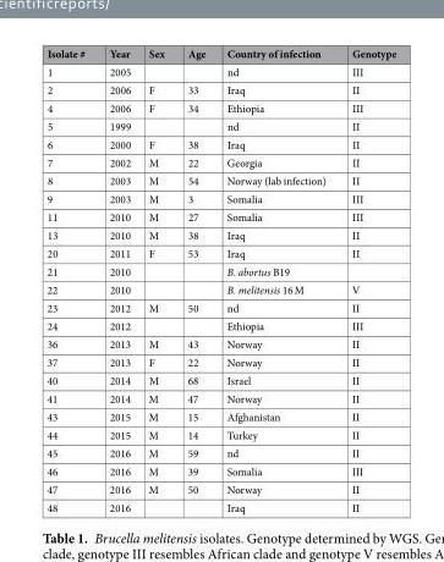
<table><thead><tr><td>Isolate #</td><td>Year</td><td>Sex</td><td>Age</td><td>Country of infection</td><td>Genotype</td></tr></thead><tbody><tr><td>1</td><td>2005</td><td></td><td></td><td>nd</td><td>III</td></tr><tr><td>2</td><td>2006</td><td>F</td><td>33</td><td>Iraq</td><td>II</td></tr><tr><td>4</td><td>2006</td><td>F</td><td>34</td><td>Ethiopia</td><td>III</td></tr><tr><td>5</td><td>1999</td><td></td><td></td><td>nd</td><td>II</td></tr><tr><td>6</td><td>2000</td><td>F</td><td>38</td><td>Iraq</td><td>II</td></tr><tr><td>7</td><td>2002</td><td>M</td><td>22</td><td>Georgia</td><td>II</td></tr><tr><td>8</td><td>2003</td><td>M</td><td>54</td><td>Norway (lab infection)</td><td>II</td></tr><tr><td>9</td><td>2003</td><td>M</td><td>3</td><td>Somalia</td><td>III</td></tr><tr><td>11</td><td>2010</td><td>M</td><td>27</td><td>Somalia</td><td>III</td></tr><tr><td>13</td><td>2010</td><td>M</td><td>38</td><td>Iraq</td><td>II</td></tr><tr><td>20</td><td>2011</td><td>F</td><td>53</td><td>Iraq</td><td>II</td></tr><tr><td>21</td><td>2010</td><td></td><td></td><td>B. abortus B19</td><td></td></tr><tr><td>22</td><td>2010</td><td></td><td></td><td>B. melitensis 16 M</td><td>V</td></tr><tr><td>23</td><td>2012</td><td>M</td><td>50</td><td>nd</td><td>II</td></tr><tr><td>24</td><td>2012</td><td></td><td></td><td>Ethiopia</td><td>III</td></tr><tr><td>36</td><td>2013</td><td>M</td><td>43</td><td>Norway</td><td>II</td></tr><tr><td>37</td><td>2013</td><td>F</td><td>22</td><td>Norway</td><td>II</td></tr><tr><td>40</td><td>2014</td><td>M</td><td>68</td><td>Israel</td><td>II</td></tr><tr><td>41</td><td>2014</td><td>M</td><td>47</td><td>Norway</td><td>II</td></tr><tr><td>43</td><td>2015</td><td>M</td><td>15</td><td>Afghanistan</td><td>II</td></tr><tr><td>44</td><td>2015</td><td>M</td><td>14</td><td>Turkey</td><td>II</td></tr><tr><td>45</td><td>2016</td><td>M</td><td>59</td><td>nd</td><td>II</td></tr><tr><td>46</td><td>2016</td><td>M</td><td>39</td><td>Somalia</td><td>III</td></tr><tr><td>47</td><td>2016</td><td>M</td><td>50</td><td>Norway</td><td>II</td></tr><tr><td>48</td><td>2016</td><td></td><td></td><td>Iraq</td><td>II</td></tr></tbody></table>